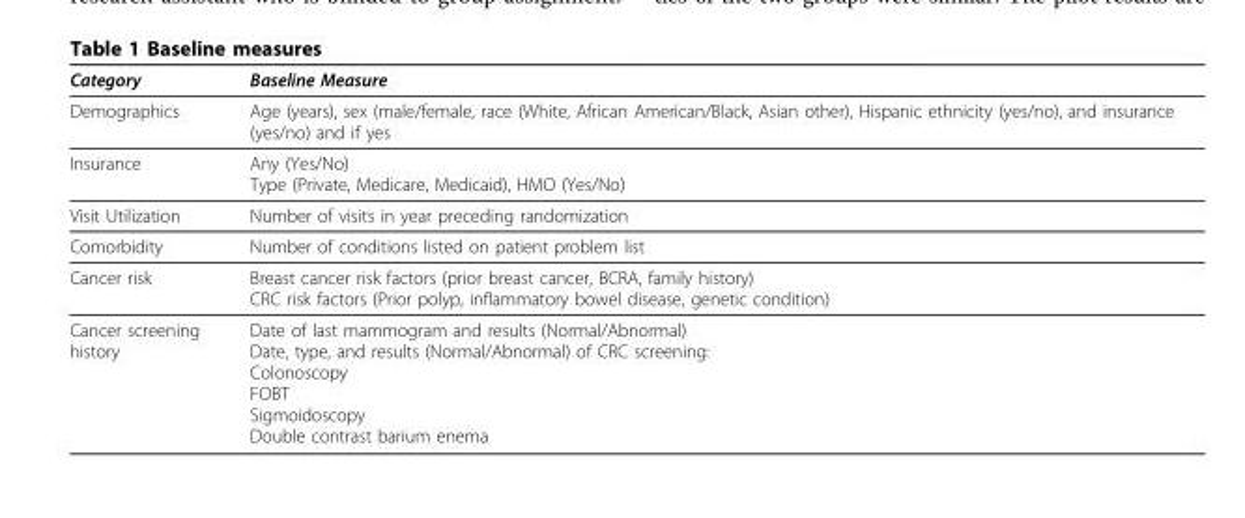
<table><thead><tr><td>Category</td><td>Baseline Measure</td></tr></thead><tbody><tr><td>Demographics</td><td>Age (years), sex (male/female, race (White, African American/Black, Asian other), Hispanic ethnicity (yes/no), and insurance (yes/no) and if yes</td></tr><tr><td>Insurance</td><td>Any (Yes/No) Type (Private, Medicare, Medicaid), HMO (Yes/No)</td></tr><tr><td>Visit Utilization</td><td>Number of visits in year preceding randomization</td></tr><tr><td>Comorbidity</td><td>Number of conditions listed on patient problem list</td></tr><tr><td>Cancer risk</td><td>Breast cancer risk factors (prior breast cancer, BCRA, family history) CRC risk factors (Prior polyp, inflammatory bowel disease, genetic condition)</td></tr><tr><td>Cancer screening history</td><td>Date of last mammogram and results (Normal/Abnormal) Date, type, and results (Normal/Abnormal) of CRC screening: Colonoscopy FOBT Sigmoidoscopy Double contrast barium enema</td></tr></tbody></table>